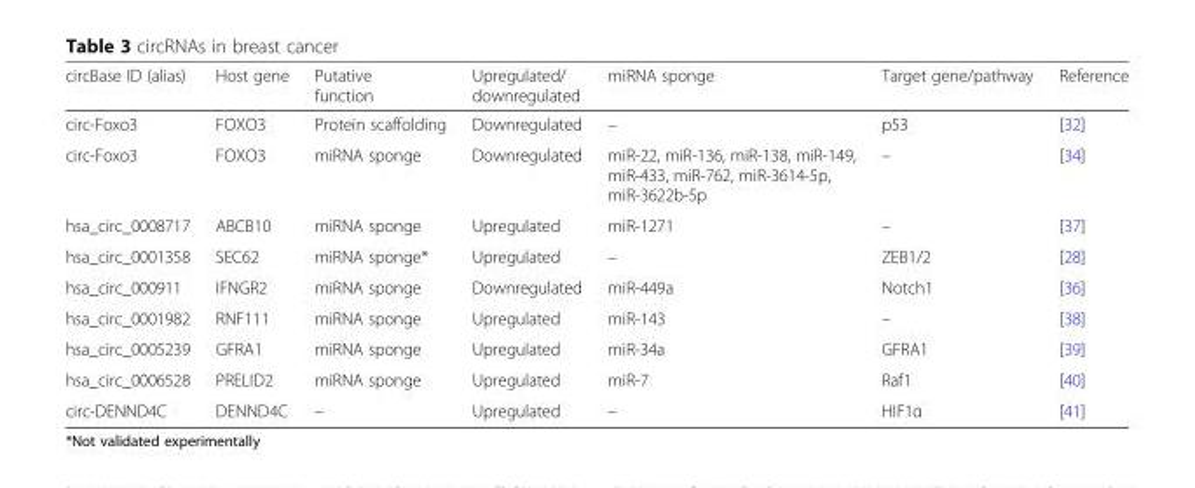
<table><thead><tr><td>circBase ID (alias)</td><td>Host gene</td><td>Putative function</td><td>Upregulated/ downregulated</td><td>miRNA sponge</td><td>Target gene/pathway</td><td>Reference</td></tr></thead><tbody><tr><td>circ-Foxo3</td><td>FOXO3</td><td>Protein scaffolding</td><td>Downregulated</td><td>–</td><td>p53</td><td>[32]</td></tr><tr><td>circ-Foxo3</td><td>FOXO3</td><td>miRNA sponge</td><td>Downregulated</td><td>miR-22, miR-136, miR-138, miR-149, miR-433, miR-762, miR-3614-5p, miR-3622b-5p</td><td>–</td><td>[34]</td></tr><tr><td>hsa_circ_0008717</td><td>ABCB10</td><td>miRNA sponge</td><td>Upregulated</td><td>miR-1271</td><td>–</td><td>[37]</td></tr><tr><td>hsa_circ_0001358</td><td>SEC62</td><td>miRNA sponge*</td><td>Upregulated</td><td>–</td><td>ZEB1/2</td><td>[28]</td></tr><tr><td>hsa_circ_000911</td><td>IFNGR2</td><td>miRNA sponge</td><td>Downregulated</td><td>miR-449a</td><td>Notch1</td><td>[36]</td></tr><tr><td>hsa_circ_0001982</td><td>RNF111</td><td>miRNA sponge</td><td>Upregulated</td><td>miR-143</td><td>–</td><td>[38]</td></tr><tr><td>hsa_circ_0005239</td><td>GFRA1</td><td>miRNA sponge</td><td>Upregulated</td><td>miR-34a</td><td>GFRA1</td><td>[39]</td></tr><tr><td>hsa_circ_0006528</td><td>PRELID2</td><td>miRNA sponge</td><td>Upregulated</td><td>miR-7</td><td>Raf1</td><td>[40]</td></tr><tr><td>circ-DENND4C</td><td>DENND4C</td><td>–</td><td>Upregulated</td><td>–</td><td>HIF1α</td><td>[41]</td></tr></tbody></table>